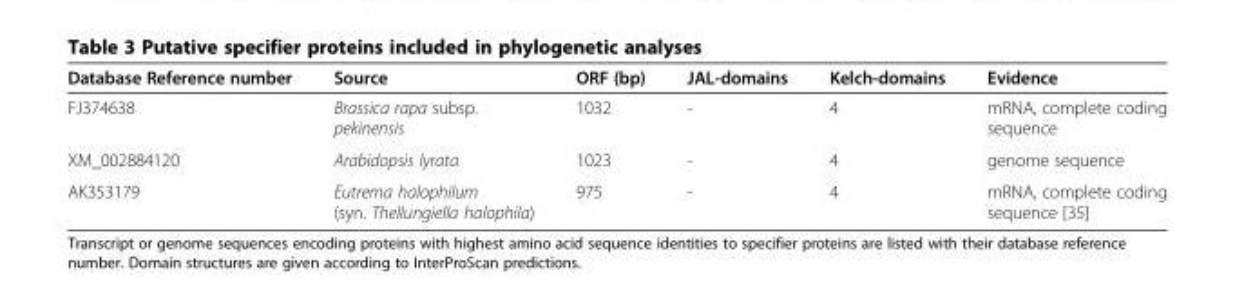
<table><thead><tr><td>Database Reference number</td><td>Source</td><td>ORF (bp)</td><td>JAL-domains</td><td>Kelch-domains</td><td>Evidence</td></tr></thead><tbody><tr><td>FJ374638</td><td>Brassica rapa subsp. pekinensis</td><td>1032</td><td>-</td><td>4</td><td>mRNA, complete coding sequence</td></tr><tr><td>XM_002884120</td><td>Arabidopsis lyrata</td><td>1023</td><td>-</td><td>4</td><td>genome sequence</td></tr><tr><td>AK353179</td><td>Eutrema halophilum (syn. Thellungiella halophila)</td><td>975</td><td>-</td><td>4</td><td>mRNA, complete coding sequence [35]</td></tr></tbody></table>